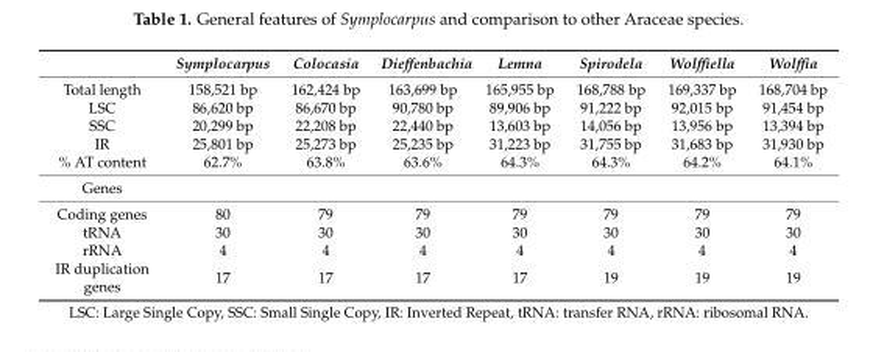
<table><thead><tr><td></td><td>Symplocarpus</td><td>Colocasia</td><td>Dieffenbachia</td><td>Lemna</td><td>Spirodela</td><td>Wolffiella</td><td>Wolffia</td></tr></thead><tbody><tr><td>Total length</td><td>158,521 bp</td><td>162,424 bp</td><td>163,699 bp</td><td>165,955 bp</td><td>168,788 bp</td><td>169,337 bp</td><td>168,704 bp</td></tr><tr><td>LSC</td><td>86,620 bp</td><td>86,670 bp</td><td>90,780 bp</td><td>89,906 bp</td><td>91,222 bp</td><td>92,015 bp</td><td>91,454 bp</td></tr><tr><td>SSC</td><td>20,299 bp</td><td>22,208 bp</td><td>22,440 bp</td><td>13,603 bp</td><td>14,056 bp</td><td>13,956 bp</td><td>13,394 bp</td></tr><tr><td>IR</td><td>25,801 bp</td><td>25,273 bp</td><td>25,235 bp</td><td>31,223 bp</td><td>31,755 bp</td><td>31,683 bp</td><td>31,930 bp</td></tr><tr><td>% AT content</td><td>62.7%</td><td>63.8%</td><td>63.6%</td><td>64.3%</td><td>64.3%</td><td>64.2%</td><td>64.1%</td></tr><tr><td colspan="8">Genes</td></tr><tr><td>Coding genes</td><td>80</td><td>79</td><td>79</td><td>79</td><td>79</td><td>79</td><td>79</td></tr><tr><td>tRNA</td><td>30</td><td>30</td><td>30</td><td>30</td><td>30</td><td>30</td><td>30</td></tr><tr><td>rRNA</td><td>4</td><td>4</td><td>4</td><td>4</td><td>4</td><td>4</td><td>4</td></tr><tr><td>IR duplication genes</td><td>17</td><td>17</td><td>17</td><td>17</td><td>19</td><td>19</td><td>19</td></tr></tbody></table>